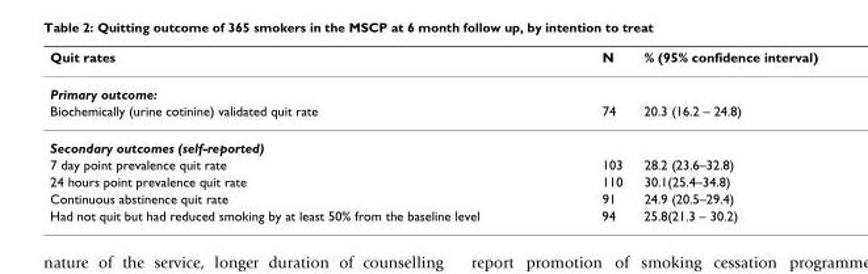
<table><thead><tr><td>Quit rates</td><td>N</td><td>% (95% confidence interval)</td></tr></thead><tbody><tr><td colspan="3">Primary outcome:</td></tr><tr><td>Biochemically (urine cotinine) validated quit rate</td><td>74</td><td>20.3 (16.2 – 24.8)</td></tr><tr><td colspan="3">Secondary outcomes (self-reported)</td></tr><tr><td>7 day point prevalence quit rate</td><td>103</td><td>28.2 (23.6–32.8)</td></tr><tr><td>24 hours point prevalence quit rate</td><td>110</td><td>30.1(25.4–34.8)</td></tr><tr><td>Continuous abstinence quit rate</td><td>91</td><td>24.9 (20.5–29.4)</td></tr><tr><td>Had not quit but had reduced smoking by at least 50% from the baseline level</td><td>94</td><td>25.8(21.3 – 30.2)</td></tr></tbody></table>